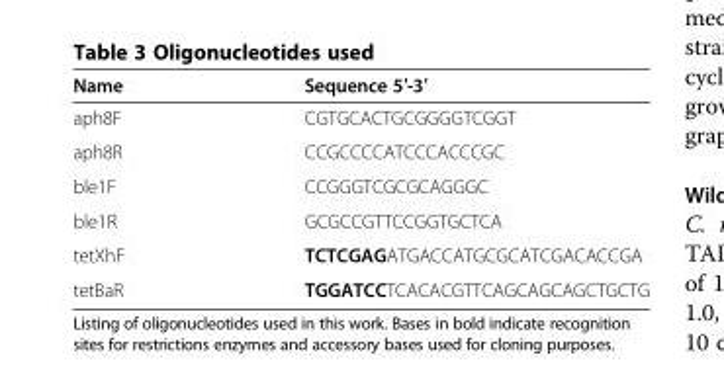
<table><thead><tr><td>Name</td><td>Sequence 5′-3′</td></tr></thead><tbody><tr><td>aph8F</td><td>CGTGCACTGCGGGGTCGGT</td></tr><tr><td>aph8R</td><td>CCGCCCCATCCCACCCGC</td></tr><tr><td>ble1F</td><td>CCGGGTCGCGCAGGGC</td></tr><tr><td>ble1R</td><td>GCGCCGTTCCGGTGCTCA</td></tr><tr><td>tetXhF</td><td>TCTCGAGATGACCATGCGCATCGACACCGA</td></tr><tr><td>tetBaR</td><td>TGGATCCTCACACGTTCAGCAGCAGCTGCTG</td></tr></tbody></table>